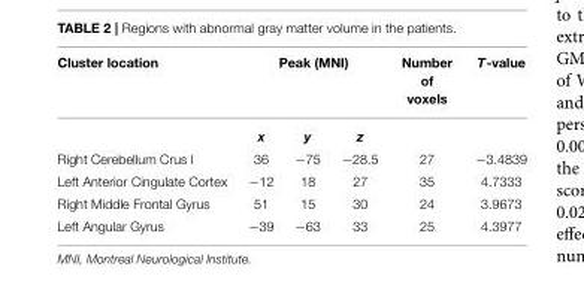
<table><thead><tr><td rowspan="2">Cluster location</td><td colspan="3">Peak (MNI)</td><td rowspan="2">Number of voxels</td><td rowspan="2">T-value</td></tr><tr><td>x</td><td>y</td><td>z</td></tr></thead><tbody><tr><td>Right Cerebellum Crus I</td><td>36</td><td>−75</td><td>−28.5</td><td>27</td><td>−3.4839</td></tr><tr><td>Left Anterior Cingulate Cortex</td><td>−12</td><td>18</td><td>27</td><td>35</td><td>4.7333</td></tr><tr><td>Right Middle Frontal Gyrus</td><td>51</td><td>15</td><td>30</td><td>24</td><td>3.9673</td></tr><tr><td>Left Angular Gyrus</td><td>−39</td><td>−63</td><td>33</td><td>25</td><td>4.3977</td></tr></tbody></table>